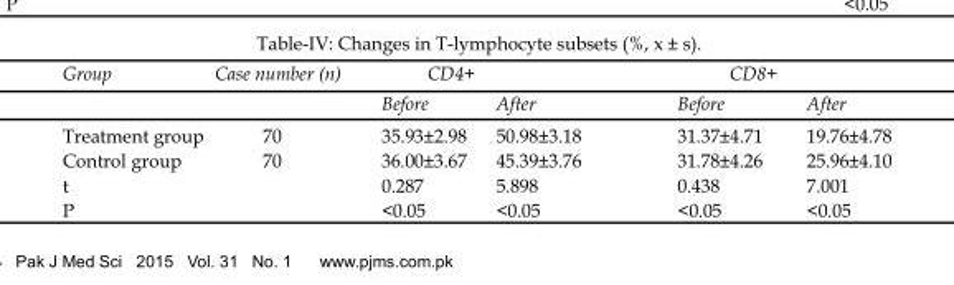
<table><tbody><tr><td rowspan="2">Group</td><td rowspan="2">Case number (n)</td><td colspan="2">CD4<sup>+</sup></td><td colspan="2">CD8<sup>+</sup></td></tr><tr><td>Before</td><td>After</td><td>Before</td><td>After</td></tr><tr><td>Treatment group</td><td>70</td><td>35.93±2.98</td><td>50.98±3.18</td><td>31.37±4.71</td><td>19.76±4.78</td></tr><tr><td>Control group</td><td>70</td><td>36.00±3.67</td><td>45.39±3.76</td><td>31.78±4.26</td><td>25.96±4.10</td></tr><tr><td>t</td><td></td><td>0.287</td><td>5.898</td><td>0.438</td><td>7.001</td></tr><tr><td>P</td><td></td><td>&lt;0.05</td><td>&lt;0.05</td><td>&lt;0.05</td><td>&lt;0.05</td></tr></tbody></table>